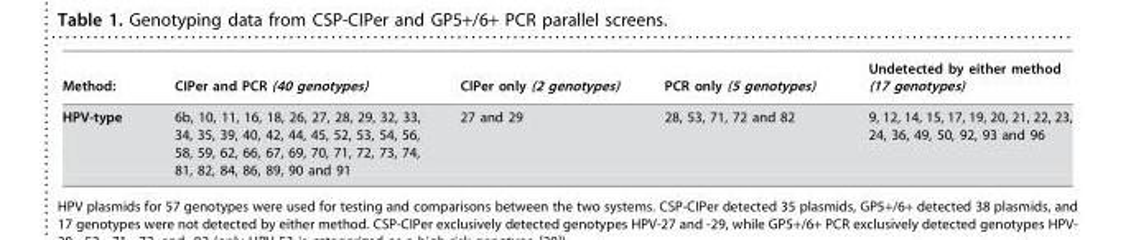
<table><thead><tr><td>Method:</td><td>CIPer and PCR (40 genotypes)</td><td>CIPer only (2 genotypes)</td><td>PCR only (5 genotypes)</td><td>Undetected by either method (17 genotypes)</td></tr></thead><tbody><tr><td>HPV-type</td><td>6b, 10, 11, 16, 18, 26, 27, 28, 29, 32, 33, 34, 35, 39, 40, 42, 44, 45, 52, 53, 54, 56, 58, 59, 62, 66, 67, 69, 70, 71, 72, 73, 74, 81, 82, 84, 86, 89, 90 and 91</td><td>27 and 29</td><td>28, 53, 71, 72 and 82</td><td>9, 12, 14, 15, 17, 19, 20, 21, 22, 23, 24, 36, 49, 50, 92, 93 and 96</td></tr></tbody></table>